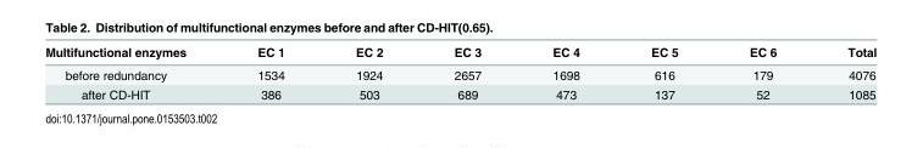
<table><thead><tr><td>Multifunctional enzymes</td><td>EC 1</td><td>EC 2</td><td>EC 3</td><td>EC 4</td><td>EC 5</td><td>EC 6</td><td>Total</td></tr></thead><tbody><tr><td>before redundancy</td><td>1534</td><td>1924</td><td>2657</td><td>1698</td><td>616</td><td>179</td><td>4076</td></tr><tr><td>after CD-HIT</td><td>386</td><td>503</td><td>689</td><td>473</td><td>137</td><td>52</td><td>1085</td></tr></tbody></table>